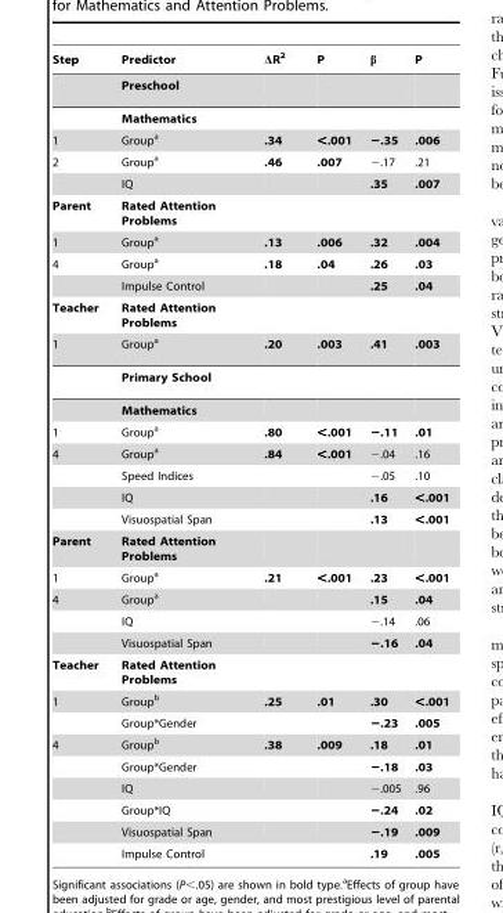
<table><thead><tr><td>Step</td><td>Predictor</td><td>ΔR<sup>2</sup></td><td>P</td><td>β</td><td>P</td></tr></thead><tbody><tr><td></td><td>Preschool</td><td></td><td></td><td></td><td></td></tr><tr><td></td><td>Mathematics</td><td></td><td></td><td></td><td></td></tr><tr><td>1</td><td>Group<sup>a</sup></td><td>.34</td><td>&lt;.001</td><td>−.35</td><td>.006</td></tr><tr><td rowspan="2">2</td><td>Group<sup>a</sup></td><td>.46</td><td>.007</td><td>−.17</td><td>.21</td></tr><tr><td>IQ</td><td></td><td></td><td>.35</td><td>.007</td></tr><tr><td>Parent</td><td>Rated Attention Problems</td><td></td><td></td><td></td><td></td></tr><tr><td>1</td><td>Group<sup>a</sup></td><td>.13</td><td>.006</td><td>.32</td><td>.004</td></tr><tr><td rowspan="2">4</td><td>Group<sup>a</sup></td><td>.18</td><td>.04</td><td>.26</td><td>.03</td></tr><tr><td>Impulse Control</td><td></td><td></td><td>.25</td><td>.04</td></tr><tr><td>Teacher</td><td>Rated Attention Problems</td><td></td><td></td><td></td><td></td></tr><tr><td rowspan="3">1</td><td>Group<sup>a</sup></td><td>.20</td><td>.003</td><td>.41</td><td>.003</td></tr><tr><td>Primary School</td><td></td><td></td><td></td><td></td></tr><tr><td>Mathematics</td><td></td><td></td><td></td><td></td></tr><tr><td>1</td><td>Group<sup>a</sup></td><td>.80</td><td>&lt;.001</td><td>−.11</td><td>.01</td></tr><tr><td rowspan="4">4</td><td>Group<sup>a</sup></td><td>.84</td><td>&lt;.001</td><td>−.04</td><td>.16</td></tr><tr><td>Speed Indices</td><td></td><td></td><td>−.05</td><td>.10</td></tr><tr><td>IQ</td><td></td><td></td><td>.16</td><td>&lt;.001</td></tr><tr><td>Visuospatial Span</td><td></td><td></td><td>.13</td><td>&lt;.001</td></tr><tr><td>Parent</td><td>Rated Attention Problems</td><td></td><td></td><td></td><td></td></tr><tr><td>1</td><td>Group<sup>a</sup></td><td>.21</td><td>&lt;.001</td><td>.23</td><td>&lt;.001</td></tr><tr><td rowspan="3">4</td><td>Group<sup>a</sup></td><td></td><td></td><td>.15</td><td>.04</td></tr><tr><td>IQ</td><td></td><td></td><td>−.14</td><td>.06</td></tr><tr><td>Visuospatial Span</td><td></td><td></td><td>−.16</td><td>.04</td></tr><tr><td>Teacher</td><td>Rated Attention Problems</td><td></td><td></td><td></td><td></td></tr><tr><td rowspan="2">1</td><td>Group<sup>b</sup></td><td>.25</td><td>.01</td><td>.30</td><td>&lt;.001</td></tr><tr><td>Group*Gender</td><td></td><td></td><td>−.23</td><td>.005</td></tr><tr><td rowspan="6">4</td><td>Group<sup>b</sup></td><td>.38</td><td>.009</td><td>.18</td><td>.01</td></tr><tr><td>Group*Gender</td><td></td><td></td><td>−.18</td><td>.03</td></tr><tr><td>IQ</td><td></td><td></td><td>−.005</td><td>.96</td></tr><tr><td>Group*IQ</td><td></td><td></td><td>−.24</td><td>.02</td></tr><tr><td>Visuospatial Span</td><td></td><td></td><td>−.19</td><td>.009</td></tr><tr><td>Impulse Control</td><td></td><td></td><td>.19</td><td>.005</td></tr></tbody></table>